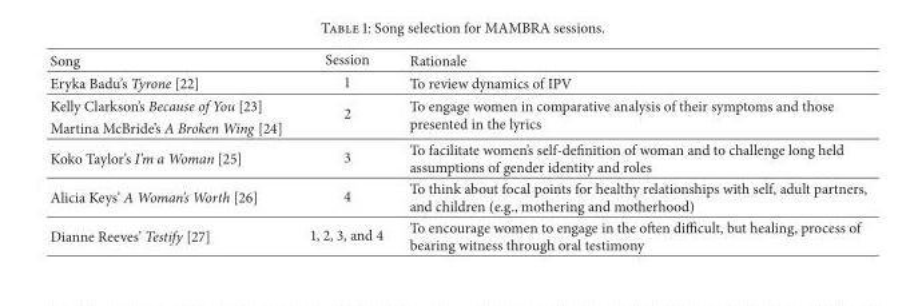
<table><thead><tr><td>Song</td><td>Session</td><td>Rationale</td></tr></thead><tbody><tr><td>Eryka Badu’s Tyrone [22]</td><td>1</td><td>To review dynamics of IPV</td></tr><tr><td>Kelly Clarkson’s Because of You [23]</td><td rowspan="2">2</td><td rowspan="2">To engage women in comparative analysis of their symptoms and those presented in the lyrics</td></tr><tr><td>Martina McBride’s A Broken Wing [24]</td></tr><tr><td>Koko Taylor’s I’m a Woman [25]</td><td>3</td><td>To facilitate women’s self-definition of woman and to challenge long held assumptions of gender identity and roles</td></tr><tr><td>Alicia Keys’ A Woman’s Worth [26]</td><td>4</td><td>To think about focal points for healthy relationships with self, adult partners, and children (e.g., mothering and motherhood)</td></tr><tr><td>Dianne Reeves’ Testify [27]</td><td>1, 2, 3, and 4</td><td>To encourage women to engage in the often difficult, but healing, process of bearing witness through oral testimony</td></tr></tbody></table>